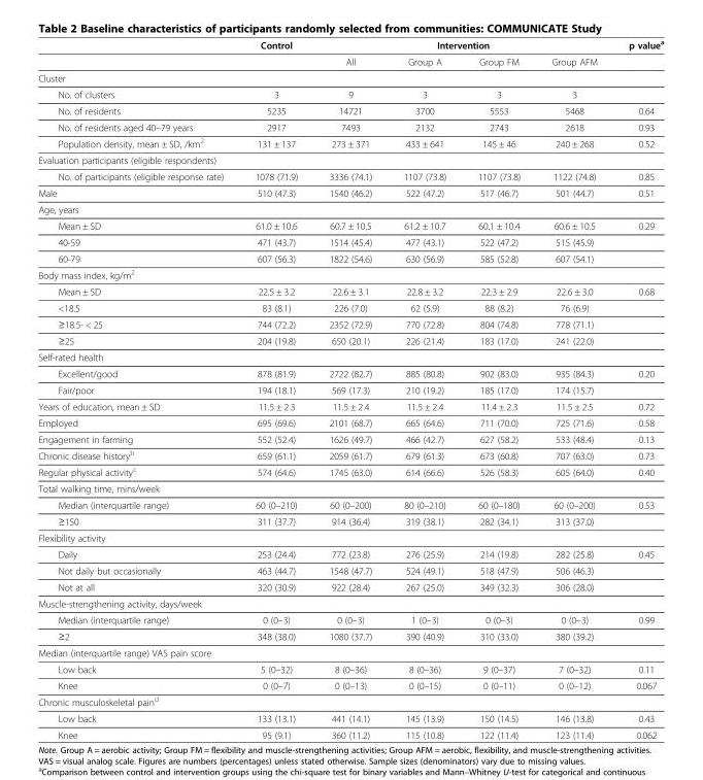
<table><thead><tr><td rowspan="2"></td><td rowspan="2">Control</td><td colspan="4">Intervention</td><td rowspan="2">p value<sup>a</sup></td></tr><tr><td>All</td><td>Group A</td><td>Group FM</td><td>Group AFM</td></tr></thead><tbody><tr><td colspan="7">Cluster</td></tr><tr><td>No. of clusters</td><td>3</td><td>9</td><td>3</td><td>3</td><td>3</td><td></td></tr><tr><td>No. of residents</td><td>5235</td><td>14721</td><td>3700</td><td>5553</td><td>5468</td><td>0.64</td></tr><tr><td>No. of residents aged 40–79 years</td><td>2917</td><td>7493</td><td>2132</td><td>2743</td><td>2618</td><td>0.93</td></tr><tr><td>Population density, mean ± SD, /km<sup>2</sup></td><td>131 ± 137</td><td>273 ± 371</td><td>433 ± 641</td><td>145 ± 46</td><td>240 ± 268</td><td>0.52</td></tr><tr><td colspan="7">Evaluation participants (eligible respondents)</td></tr><tr><td>No. of participants (eligible response rate)</td><td>1078 (71.9)</td><td>3336 (74.1)</td><td>1107 (73.8)</td><td>1107 (73.8)</td><td>1122 (74.8)</td><td>0.85</td></tr><tr><td>Male</td><td>510 (47.3)</td><td>1540 (46.2)</td><td>522 (47.2)</td><td>517 (46.7)</td><td>501 (44.7)</td><td>0.51</td></tr><tr><td colspan="7">Age, years</td></tr><tr><td>Mean ± SD</td><td>61.0 ± 10.6</td><td>60.7 ± 10.5</td><td>61.2 ± 10.7</td><td>60.1 ± 10.4</td><td>60.6 ± 10.5</td><td>0.29</td></tr><tr><td>40-59</td><td>471 (43.7)</td><td>1514 (45.4)</td><td>477 (43.1)</td><td>522 (47.2)</td><td>515 (45.9)</td><td></td></tr><tr><td>60-79</td><td>607 (56.3)</td><td>1822 (54.6)</td><td>630 (56.9)</td><td>585 (52.8)</td><td>607 (54.1)</td><td></td></tr><tr><td colspan="7">Body mass index, kg/m<sup>2</sup></td></tr><tr><td>Mean ± SD</td><td>22.5 ± 3.2</td><td>22.6 ± 3.1</td><td>22.8 ± 3.2</td><td>22.3 ± 2.9</td><td>22.6 ± 3.0</td><td>0.68</td></tr><tr><td>&lt;18.5</td><td>83 (8.1)</td><td>226 (7.0)</td><td>62 (5.9)</td><td>88 (8.2)</td><td>76 (6.9)</td><td></td></tr><tr><td>≥18.5- &lt; 25</td><td>744 (72.2)</td><td>2352 (72.9)</td><td>770 (72.8)</td><td>804 (74.8)</td><td>778 (71.1)</td><td></td></tr><tr><td>≥25</td><td>204 (19.8)</td><td>650 (20.1)</td><td>226 (21.4)</td><td>183 (17.0)</td><td>241 (22.0)</td><td></td></tr><tr><td colspan="7">Self-rated health</td></tr><tr><td>Excellent/good</td><td>878 (81.9)</td><td>2722 (82.7)</td><td>885 (80.8)</td><td>902 (83.0)</td><td>935 (84.3)</td><td>0.20</td></tr><tr><td>Fair/poor</td><td>194 (18.1)</td><td>569 (17.3)</td><td>210 (19.2)</td><td>185 (17.0)</td><td>174 (15.7)</td><td></td></tr><tr><td>Years of education, mean ± SD</td><td>11.5 ± 2.3</td><td>11.5 ± 2.4</td><td>11.5 ± 2.4</td><td>11.4 ± 2.3</td><td>11.5 ± 2.5</td><td>0.72</td></tr><tr><td>Employed</td><td>695 (69.6)</td><td>2101 (68.7)</td><td>665 (64.6)</td><td>711 (70.0)</td><td>725 (71.6)</td><td>0.58</td></tr><tr><td>Engagement in farming</td><td>552 (52.4)</td><td>1626 (49.7)</td><td>466 (42.7)</td><td>627 (58.2)</td><td>533 (48.4)</td><td>0.13</td></tr><tr><td>Chronic disease history<sup>b</sup></td><td>659 (61.1)</td><td>2059 (61.7)</td><td>679 (61.3)</td><td>673 (60.8)</td><td>707 (63.0)</td><td>0.73</td></tr><tr><td>Regular physical activity<sup>c</sup></td><td>574 (64.6)</td><td>1745 (63.0)</td><td>614 (66.6)</td><td>526 (58.3)</td><td>605 (64.0)</td><td>0.40</td></tr><tr><td colspan="7">Total walking time, mins/week</td></tr><tr><td>Median (interquartile range)</td><td>60 (0–210)</td><td>60 (0–200)</td><td>80 (0–210)</td><td>60 (0–180)</td><td>60 (0–200)</td><td>0.53</td></tr><tr><td>≥150</td><td>311 (37.7)</td><td>914 (36.4)</td><td>319 (38.1)</td><td>282 (34.1)</td><td>313 (37.0)</td><td></td></tr><tr><td colspan="7">Flexibility activity</td></tr><tr><td>Daily</td><td>253 (24.4)</td><td>772 (23.8)</td><td>276 (25.9)</td><td>214 (19.8)</td><td>282 (25.8)</td><td>0.45</td></tr><tr><td>Not daily but occasionally</td><td>463 (44.7)</td><td>1548 (47.7)</td><td>524 (49.1)</td><td>518 (47.9)</td><td>506 (46.3)</td><td></td></tr><tr><td>Not at all</td><td>320 (30.9)</td><td>922 (28.4)</td><td>267 (25.0)</td><td>349 (32.3)</td><td>306 (28.0)</td><td></td></tr><tr><td colspan="7">Muscle-strengthening activity, days/week</td></tr><tr><td>Median (interquartile range)</td><td>0 (0–3)</td><td>0 (0–3)</td><td>1 (0–3)</td><td>0 (0–3)</td><td>0 (0–3)</td><td>0.99</td></tr><tr><td>≥2</td><td>348 (38.0)</td><td>1080 (37.7)</td><td>390 (40.9)</td><td>310 (33.0)</td><td>380 (39.2)</td><td></td></tr><tr><td colspan="7">Median (interquartile range) VAS pain score</td></tr><tr><td>Low back</td><td>5 (0–32)</td><td>8 (0–36)</td><td>8 (0–36)</td><td>9 (0–37)</td><td>7 (0–32)</td><td>0.11</td></tr><tr><td>Knee</td><td>0 (0–7)</td><td>0 (0–13)</td><td>0 (0–15)</td><td>0 (0–11)</td><td>0 (0–12)</td><td>0.067</td></tr><tr><td colspan="7">Chronic musculoskeletal pain<sup>d</sup></td></tr><tr><td>Low back</td><td>133 (13.1)</td><td>441 (14.1)</td><td>145 (13.9)</td><td>150 (14.5)</td><td>146 (13.8)</td><td>0.43</td></tr><tr><td>Knee</td><td>95 (9.1)</td><td>360 (11.2)</td><td>115 (10.8)</td><td>122 (11.4)</td><td>123 (11.4)</td><td>0.062</td></tr></tbody></table>